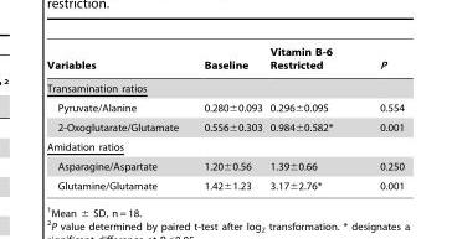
<table><thead><tr><td>Variables</td><td>Baseline</td><td>Vitamin B-6 Restricted</td><td>P</td></tr></thead><tbody><tr><td colspan="4">Transamination ratios</td></tr><tr><td>Pyruvate/Alanine</td><td>0.280±0.093</td><td>0.296±0.095</td><td>0.554</td></tr><tr><td>2-Oxoglutarate/Glutamate</td><td>0.556±0.303</td><td>0.984±0.582*</td><td>0.001</td></tr><tr><td colspan="4">Amidation ratios</td></tr><tr><td>Asparagine/Aspartate</td><td>1.20±0.56</td><td>1.39±0.66</td><td>0.250</td></tr><tr><td>Glutamine/Glutamate</td><td>1.42±1.23</td><td>3.17±2.76*</td><td>0.001</td></tr></tbody></table>